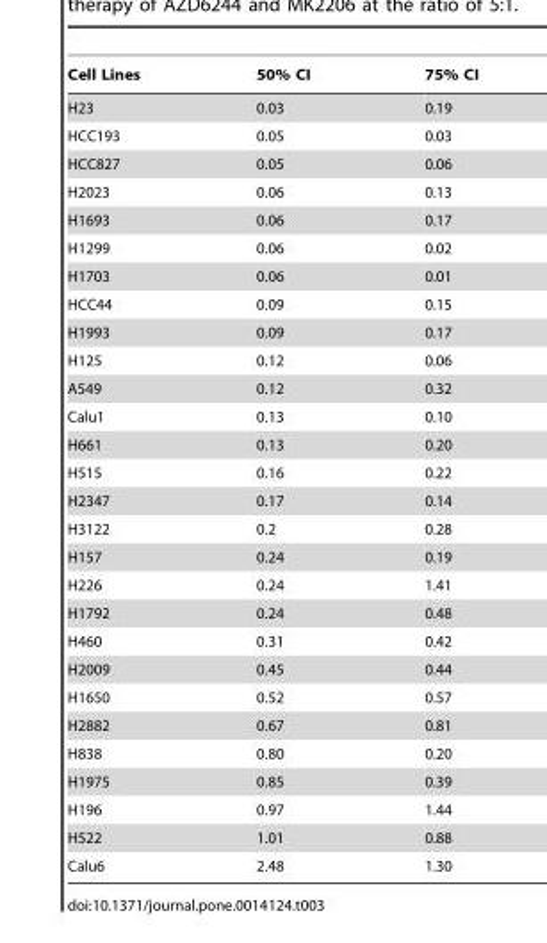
<table><thead><tr><td>Cell Lines</td><td>50% CI</td><td>75% CI</td></tr></thead><tbody><tr><td>H23</td><td>0.03</td><td>0.19</td></tr><tr><td>HCC193</td><td>0.05</td><td>0.03</td></tr><tr><td>HCC827</td><td>0.05</td><td>0.06</td></tr><tr><td>H2023</td><td>0.06</td><td>0.13</td></tr><tr><td>H1693</td><td>0.06</td><td>0.17</td></tr><tr><td>H1299</td><td>0.06</td><td>0.02</td></tr><tr><td>H1703</td><td>0.06</td><td>0.01</td></tr><tr><td>HCC44</td><td>0.09</td><td>0.15</td></tr><tr><td>H1993</td><td>0.09</td><td>0.17</td></tr><tr><td>H125</td><td>0.12</td><td>0.06</td></tr><tr><td>A549</td><td>0.12</td><td>0.32</td></tr><tr><td>Calu1</td><td>0.13</td><td>0.10</td></tr><tr><td>H661</td><td>0.13</td><td>0.20</td></tr><tr><td>H515</td><td>0.16</td><td>0.22</td></tr><tr><td>H2347</td><td>0.17</td><td>0.14</td></tr><tr><td>H3122</td><td>0.2</td><td>0.28</td></tr><tr><td>H157</td><td>0.24</td><td>0.19</td></tr><tr><td>H226</td><td>0.24</td><td>1.41</td></tr><tr><td>H1792</td><td>0.24</td><td>0.48</td></tr><tr><td>H460</td><td>0.31</td><td>0.42</td></tr><tr><td>H2009</td><td>0.45</td><td>0.44</td></tr><tr><td>H1650</td><td>0.52</td><td>0.57</td></tr><tr><td>H2882</td><td>0.67</td><td>0.81</td></tr><tr><td>H838</td><td>0.80</td><td>0.20</td></tr><tr><td>H1975</td><td>0.85</td><td>0.39</td></tr><tr><td>H196</td><td>0.97</td><td>1.44</td></tr><tr><td>H522</td><td>1.01</td><td>0.88</td></tr><tr><td>Calu6</td><td>2.48</td><td>1.30</td></tr></tbody></table>